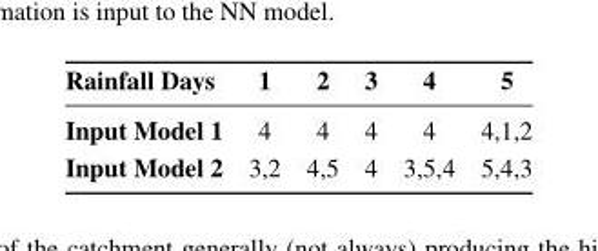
<table><thead><tr><td>Rainfall Days</td><td>1</td><td>2</td><td>3</td><td>4</td><td>5</td></tr></thead><tbody><tr><td>Input Model 1</td><td>4</td><td>4</td><td>4</td><td>4</td><td>4,1,2</td></tr><tr><td>Input Model 2</td><td>3,2</td><td>4,5</td><td>4</td><td>3,5,4</td><td>5,4,3</td></tr></tbody></table>